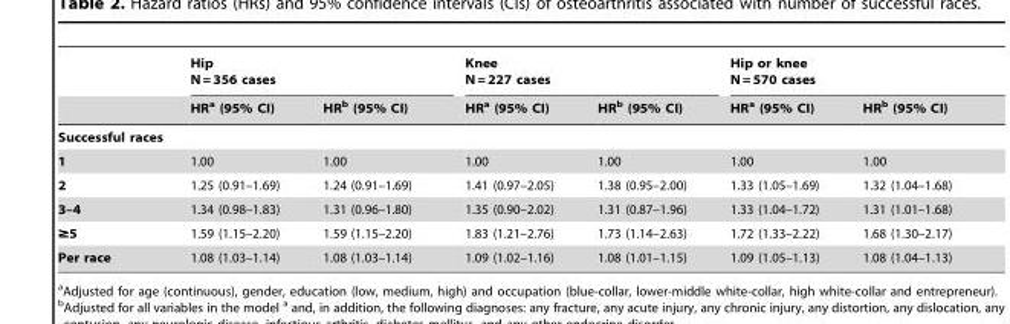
<table><thead><tr><td rowspan="2"></td><td colspan="2">Hip N = 356 cases</td><td colspan="2">Knee N = 227 cases</td><td colspan="2">Hip or knee N = 570 cases</td></tr><tr><td>HR<sup>a</sup> (95% CI)</td><td>HR<sup>b</sup> (95% CI)</td><td>HR<sup>a</sup> (95% CI)</td><td>HR<sup>b</sup> (95% CI)</td><td>HR<sup>a</sup> (95% CI)</td><td>HR<sup>b</sup> (95% CI)</td></tr></thead><tbody><tr><td colspan="7">Successful races</td></tr><tr><td>1</td><td>1.00</td><td>1.00</td><td>1.00</td><td>1.00</td><td>1.00</td><td>1.00</td></tr><tr><td>2</td><td>1.25 (0.91–1.69)</td><td>1.24 (0.91–1.69)</td><td>1.41 (0.97–2.05)</td><td>1.38 (0.95–2.00)</td><td>1.33 (1.05–1.69)</td><td>1.32 (1.04–1.68)</td></tr><tr><td>3–4</td><td>1.34 (0.98–1.83)</td><td>1.31 (0.96–1.80)</td><td>1.35 (0.90–2.02)</td><td>1.31 (0.87–1.96)</td><td>1.33 (1.04–1.72)</td><td>1.31 (1.01–1.68)</td></tr><tr><td>≥5</td><td>1.59 (1.15–2.20)</td><td>1.59 (1.15–2.20)</td><td>1.83 (1.21–2.76)</td><td>1.73 (1.14–2.63)</td><td>1.72 (1.33–2.22)</td><td>1.68 (1.30–2.17)</td></tr><tr><td>Per race</td><td>1.08 (1.03–1.14)</td><td>1.08 (1.03–1.14)</td><td>1.09 (1.02–1.16)</td><td>1.08 (1.01–1.15)</td><td>1.09 (1.05–1.13)</td><td>1.08 (1.04–1.13)</td></tr></tbody></table>